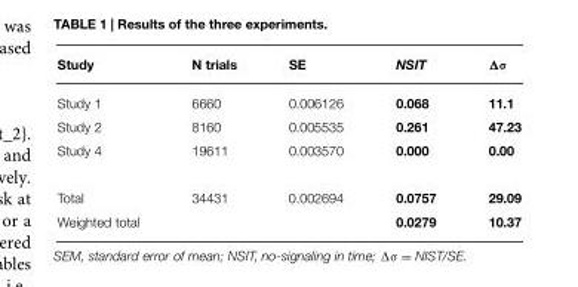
<table><thead><tr><td>Study</td><td>N trials</td><td>SE</td><td>NSIT</td><td>Δσ</td></tr></thead><tbody><tr><td>Study 1</td><td>6660</td><td>0.006126</td><td>0.068</td><td>11.1</td></tr><tr><td>Study 2</td><td>8160</td><td>0.005535</td><td>0.261</td><td>47.23</td></tr><tr><td>Study 4</td><td>19611</td><td>0.003570</td><td>0.000</td><td>0.00</td></tr><tr><td>Total</td><td>34431</td><td>0.002694</td><td>0.0757</td><td>29.09</td></tr><tr><td>Weighted total</td><td></td><td></td><td>0.0279</td><td>10.37</td></tr></tbody></table>